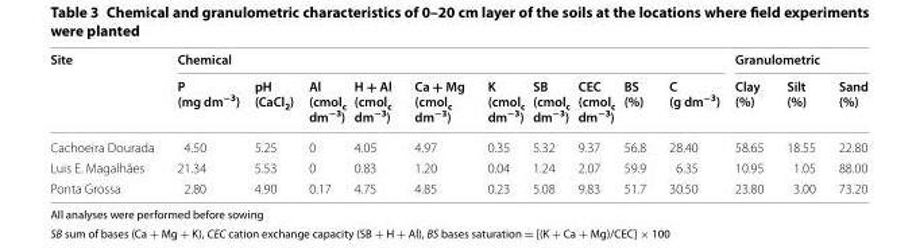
<table><thead><tr><td rowspan="2">Site</td><td colspan="10">Chemical</td><td colspan="3">Granulometric</td></tr><tr><td>P (mg dm<sup>−3</sup>)</td><td>pH (CaCl<sub>2</sub>)</td><td>Al (cmol<sub>c</sub> dm<sup>−3</sup>)</td><td>H + Al (cmol<sub>c</sub> dm<sup>−3</sup>)</td><td>Ca + Mg (cmol<sub>c</sub> dm<sup>−3</sup>)</td><td>K (cmol<sub>c</sub> dm<sup>−3</sup>)</td><td>SB (cmol<sub>c</sub> dm<sup>−3</sup>)</td><td>CEC (cmol<sub>c</sub> dm<sup>−3</sup>)</td><td>BS (%)</td><td>C (g dm<sup>−3</sup>)</td><td>Clay (%)</td><td>Silt (%)</td><td>Sand (%)</td></tr></thead><tbody><tr><td>Cachoeira Dourada</td><td>4.50</td><td>5.25</td><td>0</td><td>4.05</td><td>4.97</td><td>0.35</td><td>5.32</td><td>9.37</td><td>56.8</td><td>28.40</td><td>58.65</td><td>18.55</td><td>22.80</td></tr><tr><td>Luis E. Magalhães</td><td>21.34</td><td>5.53</td><td>0</td><td>0.83</td><td>1.20</td><td>0.04</td><td>1.24</td><td>2.07</td><td>59.9</td><td>6.35</td><td>10.95</td><td>1.05</td><td>88.00</td></tr><tr><td>Ponta Grossa</td><td>2.80</td><td>4.90</td><td>0.17</td><td>4.75</td><td>4.85</td><td>0.23</td><td>5.08</td><td>9.83</td><td>51.7</td><td>30.50</td><td>23.80</td><td>3.00</td><td>73.20</td></tr></tbody></table>